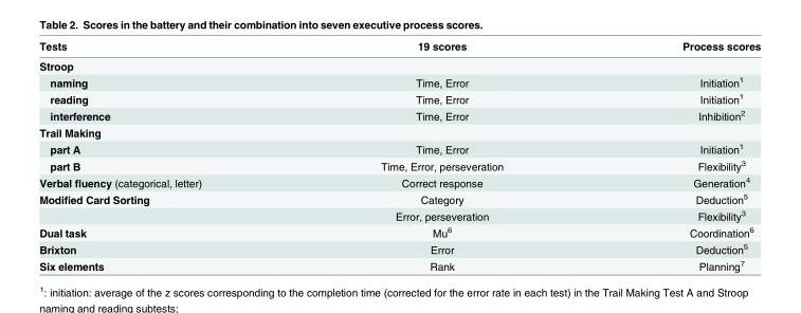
<table><thead><tr><td>Tests</td><td>19 scores</td><td>Process scores</td></tr></thead><tbody><tr><td colspan="3">Stroop</td></tr><tr><td>naming</td><td>Time, Error</td><td>Initiation<sup>1</sup></td></tr><tr><td>reading</td><td>Time, Error</td><td>Initiation<sup>1</sup></td></tr><tr><td>interference</td><td>Time, Error</td><td>Inhibition<sup>2</sup></td></tr><tr><td colspan="3">Trail Making</td></tr><tr><td>part A</td><td>Time, Error</td><td>Initiation<sup>1</sup></td></tr><tr><td>part B</td><td>Time, Error, perseveration</td><td>Flexibility<sup>3</sup></td></tr><tr><td>Verbal fluency (categorical, letter)</td><td>Correct response</td><td>Generation<sup>4</sup></td></tr><tr><td rowspan="2">Modified Card Sorting</td><td>Category</td><td>Deduction<sup>5</sup></td></tr><tr><td>Error, perseveration</td><td>Flexibility<sup>3</sup></td></tr><tr><td>Dual task</td><td>Mu<sup>6</sup></td><td>Coordination<sup>6</sup></td></tr><tr><td>Brixton</td><td>Error</td><td>Deduction<sup>5</sup></td></tr><tr><td>Six elements</td><td>Rank</td><td>Planning<sup>7</sup></td></tr></tbody></table>